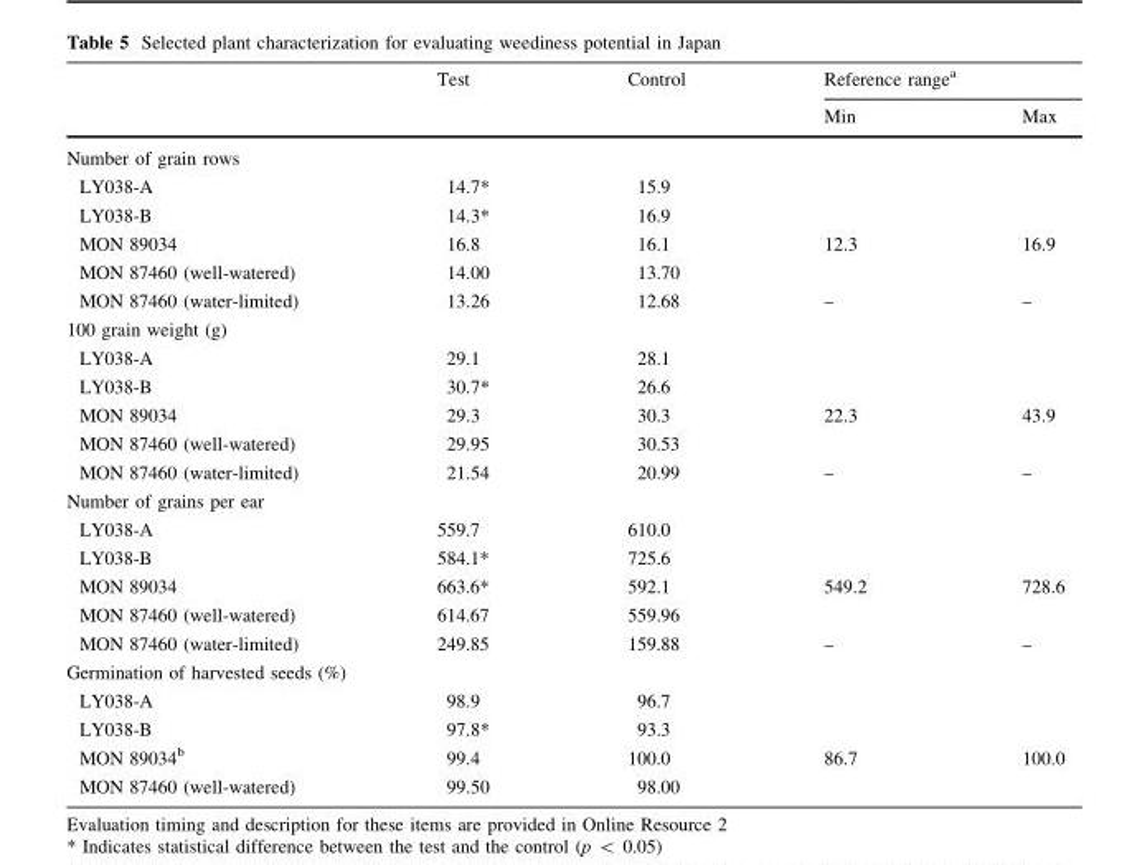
<table><thead><tr><td rowspan="2"></td><td rowspan="2">Test</td><td rowspan="2">Control</td><td colspan="2">Reference range<sup>a</sup></td></tr><tr><td>Min</td><td>Max</td></tr></thead><tbody><tr><td colspan="5">Number of grain rows</td></tr><tr><td>LY038-A</td><td>14.7*</td><td>15.9</td><td></td><td></td></tr><tr><td>LY038-B</td><td>14.3*</td><td>16.9</td><td></td><td></td></tr><tr><td>MON 89034</td><td>16.8</td><td>16.1</td><td>12.3</td><td>16.9</td></tr><tr><td>MON 87460 (well-watered)</td><td>14.00</td><td>13.70</td><td></td><td></td></tr><tr><td>MON 87460 (water-limited)</td><td>13.26</td><td>12.68</td><td>–</td><td>–</td></tr><tr><td colspan="5">100 grain weight (g)</td></tr><tr><td>LY038-A</td><td>29.1</td><td>28.1</td><td></td><td></td></tr><tr><td>LY038-B</td><td>30.7*</td><td>26.6</td><td></td><td></td></tr><tr><td>MON 89034</td><td>29.3</td><td>30.3</td><td>22.3</td><td>43.9</td></tr><tr><td>MON 87460 (well-watered)</td><td>29.95</td><td>30.53</td><td></td><td></td></tr><tr><td>MON 87460 (water-limited)</td><td>21.54</td><td>20.99</td><td>–</td><td>–</td></tr><tr><td colspan="5">Number of grains per ear</td></tr><tr><td>LY038-A</td><td>559.7</td><td>610.0</td><td></td><td></td></tr><tr><td>LY038-B</td><td>584.1*</td><td>725.6</td><td></td><td></td></tr><tr><td>MON 89034</td><td>663.6*</td><td>592.1</td><td>549.2</td><td>728.6</td></tr><tr><td>MON 87460 (well-watered)</td><td>614.67</td><td>559.96</td><td></td><td></td></tr><tr><td>MON 87460 (water-limited)</td><td>249.85</td><td>159.88</td><td>–</td><td>–</td></tr><tr><td colspan="5">Germination of harvested seeds (%)</td></tr><tr><td>LY038-A</td><td>98.9</td><td>96.7</td><td></td><td></td></tr><tr><td>LY038-B</td><td>97.8*</td><td>93.3</td><td></td><td></td></tr><tr><td>MON 89034<sup>b</sup></td><td>99.4</td><td>100.0</td><td>86.7</td><td>100.0</td></tr><tr><td>MON 87460 (well-watered)</td><td>99.50</td><td>98.00</td><td></td><td></td></tr></tbody></table>